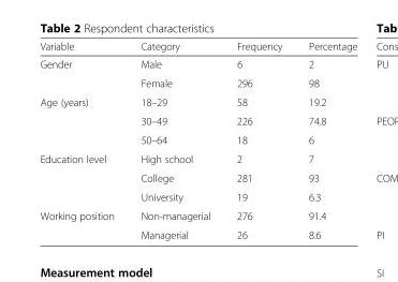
<table><thead><tr><td>Variable</td><td>Category</td><td>Frequency</td><td>Percentage</td></tr></thead><tbody><tr><td rowspan="2">Gender</td><td>Male</td><td>6</td><td>2</td></tr><tr><td>Female</td><td>296</td><td>98</td></tr><tr><td rowspan="3">Age (years)</td><td>18–29</td><td>58</td><td>19.2</td></tr><tr><td>30–49</td><td>226</td><td>74.8</td></tr><tr><td>50–64</td><td>18</td><td>6</td></tr><tr><td rowspan="3">Education level</td><td>High school</td><td>2</td><td>7</td></tr><tr><td>College</td><td>281</td><td>93</td></tr><tr><td>University</td><td>19</td><td>6.3</td></tr><tr><td rowspan="2">Working position</td><td>Non-managerial</td><td>276</td><td>91.4</td></tr><tr><td>Managerial</td><td>26</td><td>8.6</td></tr></tbody></table>